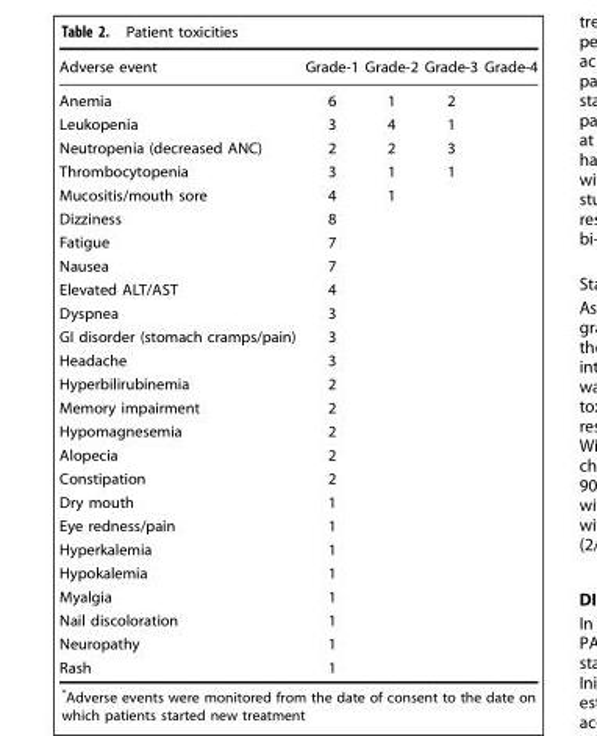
<table><thead><tr><td>Adverse event</td><td>Grade-1</td><td>Grade-2</td><td>Grade-3</td><td>Grade-4</td></tr></thead><tbody><tr><td>Anemia</td><td>6</td><td>1</td><td>2</td><td></td></tr><tr><td>Leukopenia</td><td>3</td><td>4</td><td>1</td><td></td></tr><tr><td>Neutropenia (decreased ANC)</td><td>2</td><td>2</td><td>3</td><td></td></tr><tr><td>Thrombocytopenia</td><td>3</td><td>1</td><td>1</td><td></td></tr><tr><td>Mucositis/mouth sore</td><td>4</td><td>1</td><td></td><td></td></tr><tr><td>Dizziness</td><td>8</td><td></td><td></td><td></td></tr><tr><td>Fatigue</td><td>7</td><td></td><td></td><td></td></tr><tr><td>Nausea</td><td>7</td><td></td><td></td><td></td></tr><tr><td>Elevated ALT/AST</td><td>4</td><td></td><td></td><td></td></tr><tr><td>Dyspnea</td><td>3</td><td></td><td></td><td></td></tr><tr><td>GI disorder (stomach cramps/pain)</td><td>3</td><td></td><td></td><td></td></tr><tr><td>Headache</td><td>3</td><td></td><td></td><td></td></tr><tr><td>Hyperbilirubinemia</td><td>2</td><td></td><td></td><td></td></tr><tr><td>Memory impairment</td><td>2</td><td></td><td></td><td></td></tr><tr><td>Hypomagnesemia</td><td>2</td><td></td><td></td><td></td></tr><tr><td>Alopecia</td><td>2</td><td></td><td></td><td></td></tr><tr><td>Constipation</td><td>2</td><td></td><td></td><td></td></tr><tr><td>Dry mouth</td><td>1</td><td></td><td></td><td></td></tr><tr><td>Eye redness/pain</td><td>1</td><td></td><td></td><td></td></tr><tr><td>Hyperkalemia</td><td>1</td><td></td><td></td><td></td></tr><tr><td>Hypokalemia</td><td>1</td><td></td><td></td><td></td></tr><tr><td>Myalgia</td><td>1</td><td></td><td></td><td></td></tr><tr><td>Nail discoloration</td><td>1</td><td></td><td></td><td></td></tr><tr><td>Neuropathy</td><td>1</td><td></td><td></td><td></td></tr><tr><td>Rash</td><td>1</td><td></td><td></td><td></td></tr></tbody></table>